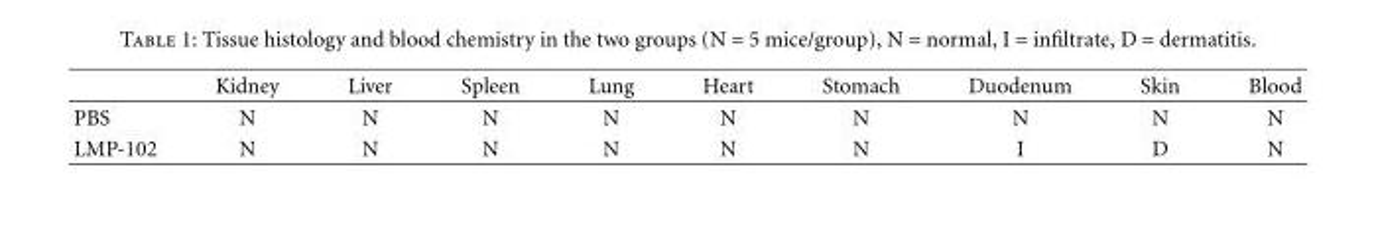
<table><thead><tr><td></td><td>Kidney</td><td>Liver</td><td>Spleen</td><td>Lung</td><td>Heart</td><td>Stomach</td><td>Duodenum</td><td>Skin</td><td>Blood</td></tr></thead><tbody><tr><td>PBS</td><td>N</td><td>N</td><td>N</td><td>N</td><td>N</td><td>N</td><td>N</td><td>N</td><td>N</td></tr><tr><td>LMP-102</td><td>N</td><td>N</td><td>N</td><td>N</td><td>N</td><td>N</td><td>I</td><td>D</td><td>N</td></tr></tbody></table>